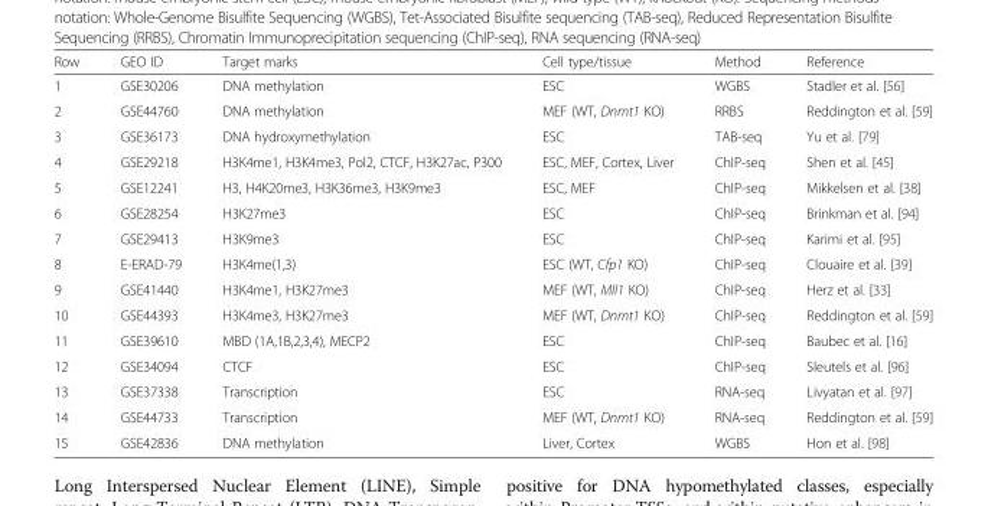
<table><thead><tr><td>Row</td><td>GEO ID</td><td>Target marks</td><td>Cell type/tissue</td><td>Method</td><td>Reference</td></tr></thead><tbody><tr><td>1</td><td>GSE30206</td><td>DNA methylation</td><td>ESC</td><td>WGBS</td><td>Stadler et al. [56]</td></tr><tr><td>2</td><td>GSE44760</td><td>DNA methylation</td><td>MEF (WT, Dnmt1 KO)</td><td>RRBS</td><td>Reddington et al. [59]</td></tr><tr><td>3</td><td>GSE36173</td><td>DNA hydroxymethylation</td><td>ESC</td><td>TAB-seq</td><td>Yu et al. [79]</td></tr><tr><td>4</td><td>GSE29218</td><td>H3K4me1, H3K4me3, Pol2, CTCF, H3K27ac, P300</td><td>ESC, MEF, Cortex, Liver</td><td>ChIP-seq</td><td>Shen et al. [45]</td></tr><tr><td>5</td><td>GSE12241</td><td>H3, H4K20me3, H3K36me3, H3K9me3</td><td>ESC, MEF</td><td>ChIP-seq</td><td>Mikkelsen et al. [38]</td></tr><tr><td>6</td><td>GSE28254</td><td>H3K27me3</td><td>ESC</td><td>ChIP-seq</td><td>Brinkman et al. [94]</td></tr><tr><td>7</td><td>GSE29413</td><td>H3K9me3</td><td>ESC</td><td>ChIP-seq</td><td>Karimi et al. [95]</td></tr><tr><td>8</td><td>E-ERAD-79</td><td>H3K4me(1,3)</td><td>ESC (WT, Cfp1 KO)</td><td>ChIP-seq</td><td>Clouaire et al. [39]</td></tr><tr><td>9</td><td>GSE41440</td><td>H3K4me1, H3K27me3</td><td>MEF (WT, Mll1 KO)</td><td>ChIP-seq</td><td>Herz et al. [33]</td></tr><tr><td>10</td><td>GSE44393</td><td>H3K4me3, H3K27me3</td><td>MEF (WT, Dnmt1 KO)</td><td>ChIP-seq</td><td>Reddington et al. [59]</td></tr><tr><td>11</td><td>GSE39610</td><td>MBD (1A,1B,2,3,4), MECP2</td><td>ESC</td><td>ChIP-seq</td><td>Baubec et al. [16]</td></tr><tr><td>12</td><td>GSE34094</td><td>CTCF</td><td>ESC</td><td>ChIP-seq</td><td>Sleutels et al. [96]</td></tr><tr><td>13</td><td>GSE37338</td><td>Transcription</td><td>ESC</td><td>RNA-seq</td><td>Livyatan et al. [97]</td></tr><tr><td>14</td><td>GSE44733</td><td>Transcription</td><td>MEF (WT, Dnmt1 KO)</td><td>RNA-seq</td><td>Reddington et al. [59]</td></tr><tr><td>15</td><td>GSE42836</td><td>DNA methylation</td><td>Liver, Cortex</td><td>WGBS</td><td>Hon et al. [98]</td></tr></tbody></table>